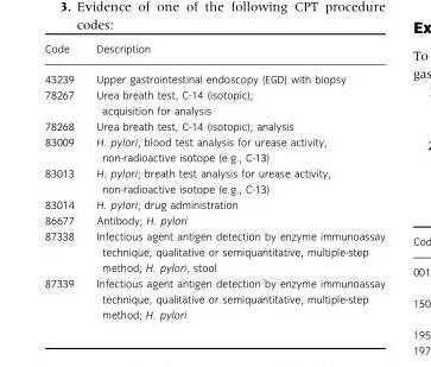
<table><thead><tr><td>Code</td><td>Description</td></tr></thead><tbody><tr><td>43239</td><td>Upper gastrointestinal endoscopy (EGD) with biopsy</td></tr><tr><td>78267</td><td>Urea breath test, C-14 (isotopic); acquisition for analysis</td></tr><tr><td>78268</td><td>Urea breath test, C-14 (isotopic); analysis</td></tr><tr><td>83009</td><td>H. pylori, blood test analysis for urease activity, non-radioactive isotope (e.g., C-13)</td></tr><tr><td>83013</td><td>H. pylori; breath test analysis for urease activity, non-radioactive isotope (e.g., C-13)</td></tr><tr><td>83014</td><td>H. pylori; drug administration</td></tr><tr><td>86677</td><td>Antibody; H. pylori</td></tr><tr><td>87338</td><td>Infectious agent antigen detection by enzyme immunoassay technique, qualitative or semiquantitative, multiple-step method; H. pylori, stool</td></tr><tr><td>87339</td><td>Infectious agent antigen detection by enzyme immunoassay technique, qualitative or semiquantitative, multiple-step method; H. pylori</td></tr></tbody></table>